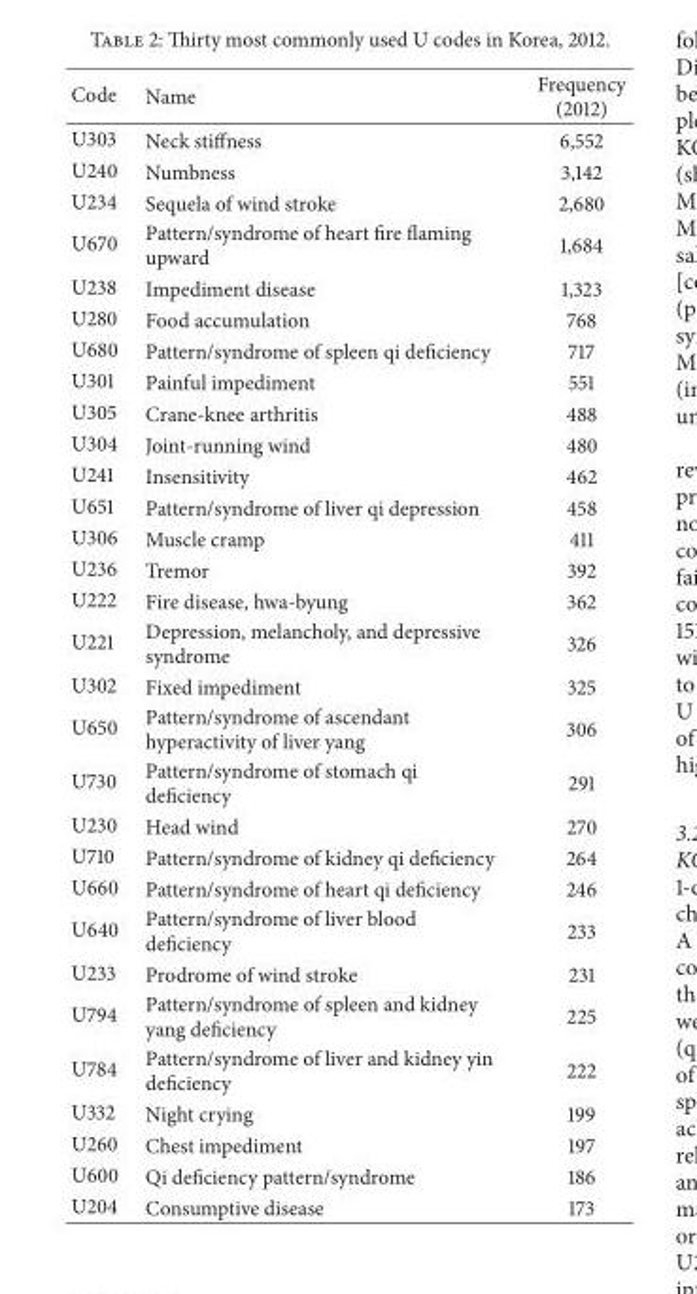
<table><thead><tr><td>Code</td><td>Name</td><td>Frequency (2012)</td></tr></thead><tbody><tr><td>U303</td><td>Neck stiffness</td><td>6,552</td></tr><tr><td>U240</td><td>Numbness</td><td>3,142</td></tr><tr><td>U234</td><td>Sequela of wind stroke</td><td>2,680</td></tr><tr><td>U670</td><td>Pattern/syndrome of heart fire flaming upward</td><td>1,684</td></tr><tr><td>U238</td><td>Impediment disease</td><td>1,323</td></tr><tr><td>U280</td><td>Food accumulation</td><td>768</td></tr><tr><td>U680</td><td>Pattern/syndrome of spleen qi deficiency</td><td>717</td></tr><tr><td>U301</td><td>Painful impediment</td><td>551</td></tr><tr><td>U305</td><td>Crane-knee arthritis</td><td>488</td></tr><tr><td>U304</td><td>Joint-running wind</td><td>480</td></tr><tr><td>U241</td><td>Insensitivity</td><td>462</td></tr><tr><td>U651</td><td>Pattern/syndrome of liver qi depression</td><td>458</td></tr><tr><td>U306</td><td>Muscle cramp</td><td>411</td></tr><tr><td>U236</td><td>Tremor</td><td>392</td></tr><tr><td>U222</td><td>Fire disease, hwa-byung</td><td>362</td></tr><tr><td>U221</td><td>Depression, melancholy, and depressive syndrome</td><td>326</td></tr><tr><td>U302</td><td>Fixed impediment</td><td>325</td></tr><tr><td>U650</td><td>Pattern/syndrome of ascendant hyperactivity of liver yang</td><td>306</td></tr><tr><td>U730</td><td>Pattern/syndrome of stomach qi deficiency</td><td>291</td></tr><tr><td>U230</td><td>Head wind</td><td>270</td></tr><tr><td>U710</td><td>Pattern/syndrome of kidney qi deficiency</td><td>264</td></tr><tr><td>U660</td><td>Pattern/syndrome of heart qi deficiency</td><td>246</td></tr><tr><td>U640</td><td>Pattern/syndrome of liver blood deficiency</td><td>233</td></tr><tr><td>U233</td><td>Prodrome of wind stroke</td><td>231</td></tr><tr><td>U794</td><td>Pattern/syndrome of spleen and kidney yang deficiency</td><td>225</td></tr><tr><td>U784</td><td>Pattern/syndrome of liver and kidney yin deficiency</td><td>222</td></tr><tr><td>U332</td><td>Night crying</td><td>199</td></tr><tr><td>U260</td><td>Chest impediment</td><td>197</td></tr><tr><td>U600</td><td>Qi deficiency pattern/syndrome</td><td>186</td></tr><tr><td>U204</td><td>Consumptive disease</td><td>173</td></tr></tbody></table>